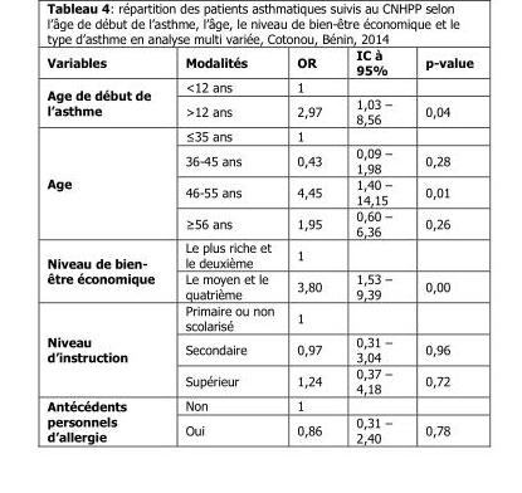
<table><thead><tr><td>Variables</td><td>Modalités</td><td>OR</td><td>IC à 95%</td><td>p-value</td></tr></thead><tbody><tr><td rowspan="2">Age de début de l’asthme</td><td>&lt;12 ans</td><td>1</td><td></td><td></td></tr><tr><td>&gt;12 ans</td><td>2,97</td><td>1,03 – 8,56</td><td>0,04</td></tr><tr><td rowspan="4">Age</td><td>≤35 ans</td><td>1</td><td></td><td></td></tr><tr><td>36-45 ans</td><td>0,43</td><td>0,09 – 1,98</td><td>0,28</td></tr><tr><td>46-55 ans</td><td>4,45</td><td>1,40 – 14,15</td><td>0,01</td></tr><tr><td>≥56 ans</td><td>1,95</td><td>0,60 – 6,36</td><td>0,26</td></tr><tr><td rowspan="2">Niveau de bien- être économique</td><td>Le plus riche et le deuxième</td><td>1</td><td></td><td></td></tr><tr><td>Le moyen et le quatrième</td><td>3,80</td><td>1,53 – 9,39</td><td>0,00</td></tr><tr><td rowspan="3">Niveau d’instruction</td><td>Primaire ou non scolarisé</td><td>1</td><td></td><td></td></tr><tr><td>Secondaire</td><td>0,97</td><td>0,31 – 3,04</td><td>0,96</td></tr><tr><td>Supérieur</td><td>1,24</td><td>0,37 – 4,18</td><td>0,72</td></tr><tr><td rowspan="2">Antécédents personnels d’allergie</td><td>Non</td><td>1</td><td></td><td></td></tr><tr><td>Oui</td><td>0,86</td><td>0,31 – 2,40</td><td>0,78</td></tr></tbody></table>